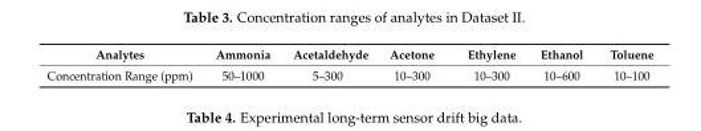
<table><thead><tr><td>Analytes</td><td>Ammonia</td><td>Acetaldehyde</td><td>Acetone</td><td>Ethylene</td><td>Ethanol</td><td>Toluene</td></tr></thead><tbody><tr><td>Concentration Range (ppm)</td><td>50–1000</td><td>5–300</td><td>10–300</td><td>10–300</td><td>10–600</td><td>10–100</td></tr></tbody></table>